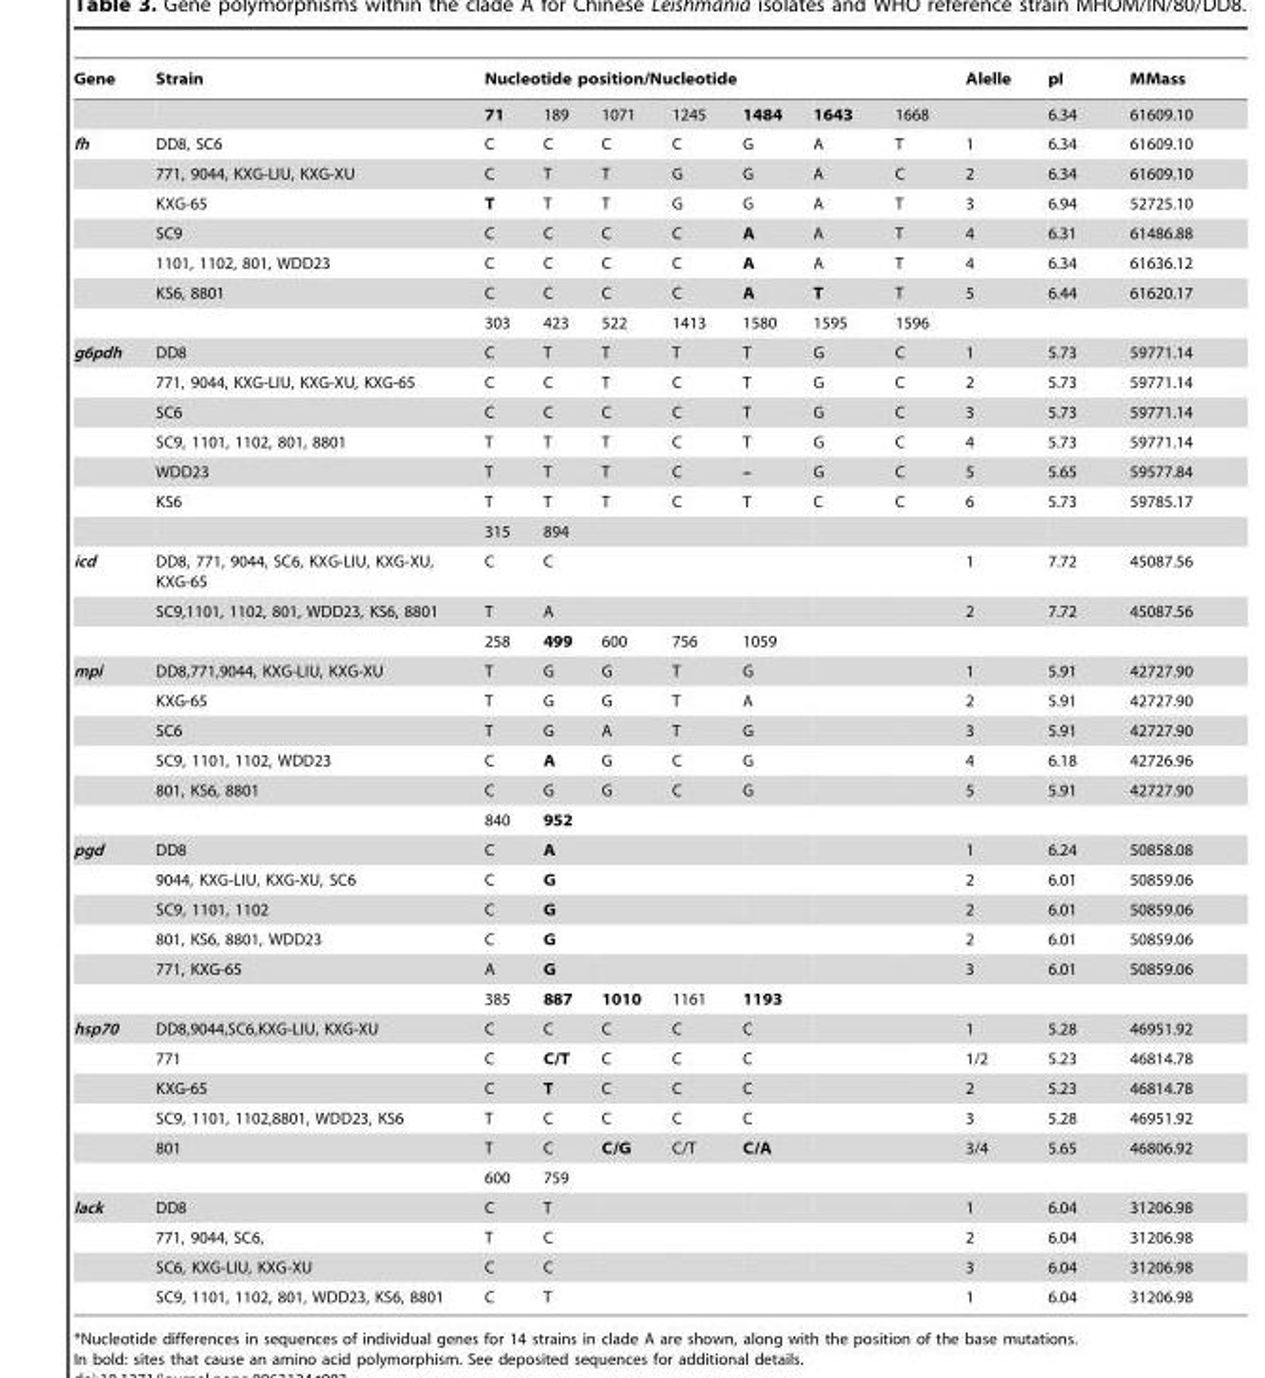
<table><thead><tr><td rowspan="2">Gene</td><td rowspan="2">Strain</td><td colspan="7">Nucleotide position/Nucleotide</td><td rowspan="2">Alelle</td><td rowspan="2">pI 6.34</td><td rowspan="2">MMass 61609.10</td></tr><tr><td>71</td><td>189</td><td>1071</td><td>1245</td><td>1484</td><td>1643</td><td>1668</td></tr></thead><tbody><tr><td rowspan="7">fh</td><td>DD8, SC6</td><td>C</td><td>C</td><td>C</td><td>C</td><td>G</td><td>A</td><td>T</td><td>1</td><td>6.34</td><td>61609.10</td></tr><tr><td>771, 9044, KXG-LIU, KXG-XU</td><td>C</td><td>T</td><td>T</td><td>G</td><td>G</td><td>A</td><td>C</td><td>2</td><td>6.34</td><td>61609.10</td></tr><tr><td>KXG-65</td><td>T</td><td>T</td><td>T</td><td>G</td><td>G</td><td>A</td><td>T</td><td>3</td><td>6.94</td><td>52725.10</td></tr><tr><td>SC9</td><td>C</td><td>C</td><td>C</td><td>C</td><td>A</td><td>A</td><td>T</td><td>4</td><td>6.31</td><td>61486.88</td></tr><tr><td>1101, 1102, 801, WDD23</td><td>C</td><td>C</td><td>C</td><td>C</td><td>A</td><td>A</td><td>T</td><td>4</td><td>6.34</td><td>61636.12</td></tr><tr><td>KS6, 8801</td><td>C</td><td>C</td><td>C</td><td>C</td><td>A</td><td>T</td><td>T</td><td>5</td><td>6.44</td><td>61620.17</td></tr><tr><td></td><td>303</td><td>423</td><td>522</td><td>1413</td><td>1580</td><td>1595</td><td>1596</td><td></td><td></td><td></td></tr><tr><td rowspan="7">g6pdh</td><td>DD8</td><td>C</td><td>T</td><td>T</td><td>T</td><td>T</td><td>G</td><td>C</td><td>1</td><td>5.73</td><td>59771.14</td></tr><tr><td>771, 9044, KXG-LIU, KXG-XU, KXG-65</td><td>C</td><td>C</td><td>T</td><td>C</td><td>T</td><td>G</td><td>C</td><td>2</td><td>5.73</td><td>59771.14</td></tr><tr><td>SC6</td><td>C</td><td>C</td><td>C</td><td>C</td><td>T</td><td>G</td><td>C</td><td>3</td><td>5.73</td><td>59771.14</td></tr><tr><td>SC9, 1101, 1102, 801, 8801</td><td>T</td><td>T</td><td>T</td><td>C</td><td>T</td><td>G</td><td>C</td><td>4</td><td>5.73</td><td>59771.14</td></tr><tr><td>WDD23</td><td>T</td><td>T</td><td>T</td><td>C</td><td>–</td><td>G</td><td>C</td><td>5</td><td>5.65</td><td>59577.84</td></tr><tr><td>KS6</td><td>T</td><td>T</td><td>T</td><td>C</td><td>T</td><td>C</td><td>C</td><td>6</td><td>5.73</td><td>59785.17</td></tr><tr><td></td><td>315</td><td>894</td><td></td><td></td><td></td><td></td><td></td><td></td><td></td><td></td></tr><tr><td rowspan="3">icd</td><td>DD8, 771, 9044, SC6, KXG-LIU, KXG-XU, KXG-65</td><td>C</td><td>C</td><td></td><td></td><td></td><td></td><td></td><td>1</td><td>7.72</td><td>45087.56</td></tr><tr><td>SC9,1101, 1102, 801, WDD23, KS6, 8801</td><td>T</td><td>A</td><td></td><td></td><td></td><td></td><td></td><td>2</td><td>7.72</td><td>45087.56</td></tr><tr><td></td><td>258</td><td>499</td><td>600</td><td>756</td><td>1059</td><td></td><td></td><td></td><td></td><td></td></tr><tr><td rowspan="6">mpi</td><td>DD8,771,9044, KXG-LIU, KXG-XU</td><td>T</td><td>G</td><td>G</td><td>T</td><td>G</td><td></td><td></td><td>1</td><td>5.91</td><td>42727.90</td></tr><tr><td>KXG-65</td><td>T</td><td>G</td><td>G</td><td>T</td><td>A</td><td></td><td></td><td>2</td><td>5.91</td><td>42727.90</td></tr><tr><td>SC6</td><td>T</td><td>G</td><td>A</td><td>T</td><td>G</td><td></td><td></td><td>3</td><td>5.91</td><td>42727.90</td></tr><tr><td>SC9, 1101, 1102, WDD23</td><td>C</td><td>A</td><td>G</td><td>C</td><td>G</td><td></td><td></td><td>4</td><td>6.18</td><td>42726.96</td></tr><tr><td>801, KS6, 8801</td><td>C</td><td>G</td><td>G</td><td>C</td><td>G</td><td></td><td></td><td>5</td><td>5.91</td><td>42727.90</td></tr><tr><td></td><td>840</td><td>952</td><td></td><td></td><td></td><td></td><td></td><td></td><td></td><td></td></tr><tr><td rowspan="6">pgd</td><td>DD8</td><td>C</td><td>A</td><td></td><td></td><td></td><td></td><td></td><td>1</td><td>6.24</td><td>50858.08</td></tr><tr><td>9044, KXG-LIU, KXG-XU, SC6</td><td>C</td><td>G</td><td></td><td></td><td></td><td></td><td></td><td>2</td><td>6.01</td><td>50859.06</td></tr><tr><td>SC9, 1101, 1102</td><td>C</td><td>G</td><td></td><td></td><td></td><td></td><td></td><td>2</td><td>6.01</td><td>50859.06</td></tr><tr><td>801, KS6, 8801, WDD23</td><td>C</td><td>G</td><td></td><td></td><td></td><td></td><td></td><td>2</td><td>6.01</td><td>50859.06</td></tr><tr><td>771, KXG-65</td><td>A</td><td>G</td><td></td><td></td><td></td><td></td><td></td><td>3</td><td>6.01</td><td>50859.06</td></tr><tr><td></td><td>385</td><td>887</td><td>1010</td><td>1161</td><td>1193</td><td></td><td></td><td></td><td></td><td></td></tr><tr><td rowspan="6">hsp70</td><td>DD8,9044,SC6,KXG-LIU, KXG-XU</td><td>C</td><td>C</td><td>C</td><td>C</td><td>C</td><td></td><td></td><td>1</td><td>5.28</td><td>46951.92</td></tr><tr><td>771</td><td>C</td><td>C/T</td><td>C</td><td>C</td><td>C</td><td></td><td></td><td>1/2</td><td>5.23</td><td>46814.78</td></tr><tr><td>KXG-65</td><td>C</td><td>T</td><td>C</td><td>C</td><td>C</td><td></td><td></td><td>2</td><td>5.23</td><td>46814.78</td></tr><tr><td>SC9, 1101, 1102,8801, WDD23, KS6</td><td>T</td><td>C</td><td>C</td><td>C</td><td>C</td><td></td><td></td><td>3</td><td>5.28</td><td>46951.92</td></tr><tr><td>801</td><td>T</td><td>C</td><td>C/G</td><td>C/T</td><td>C/A</td><td></td><td></td><td>3/4</td><td>5.65</td><td>46806.92</td></tr><tr><td></td><td>600</td><td>759</td><td></td><td></td><td></td><td></td><td></td><td></td><td></td><td></td></tr><tr><td rowspan="4">lack</td><td>DD8</td><td>C</td><td>T</td><td></td><td></td><td></td><td></td><td></td><td>1</td><td>6.04</td><td>31206.98</td></tr><tr><td>771, 9044, SC6,</td><td>T</td><td>C</td><td></td><td></td><td></td><td></td><td></td><td>2</td><td>6.04</td><td>31206.98</td></tr><tr><td>SC6, KXG-LIU, KXG-XU</td><td>C</td><td>C</td><td></td><td></td><td></td><td></td><td></td><td>3</td><td>6.04</td><td>31206.98</td></tr><tr><td>SC9, 1101, 1102, 801, WDD23, KS6, 8801</td><td>C</td><td>T</td><td></td><td></td><td></td><td></td><td></td><td>1</td><td>6.04</td><td>31206.98</td></tr></tbody></table>